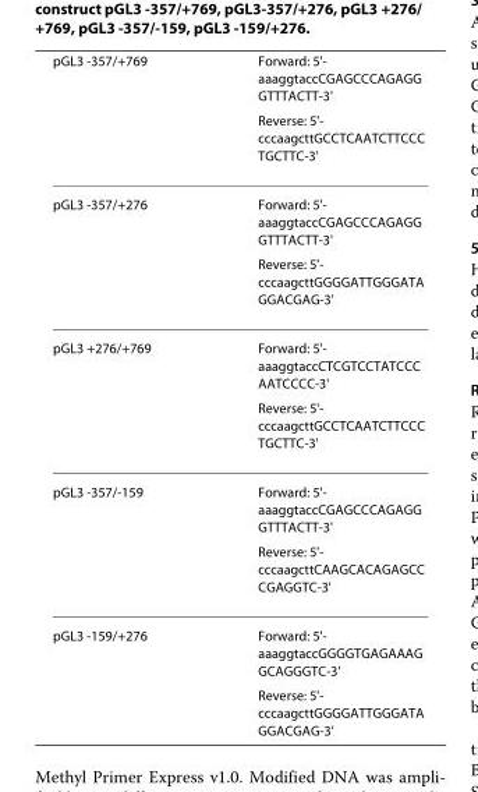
<table><thead><tr><td rowspan="2">pGL3 -357/+769</td><td rowspan="2">Forward: 5&#x27;- aaaggtaccCGAGCCCAGAGG GTTTACTT-3&#x27; Reverse: 5&#x27;- cccaagcttGCCTCAATCTTCCC TGCTTC-3&#x27;</td></tr><tr></tr></thead><tbody><tr><td rowspan="2">pGL3 -357/+276</td><td>Forward: 5&#x27;- aaaggtaccCGAGCCCAGAGG GTTTACTT-3&#x27;</td></tr><tr><td>Reverse: 5&#x27;- cccaagcttGGGGATTGGGATA GGACGAG-3&#x27;</td></tr><tr><td rowspan="2">pGL3 +276/+769</td><td>Forward: 5&#x27;- aaaggtaccCTCGTCCTATCCC AATCCCC-3&#x27;</td></tr><tr><td>Reverse: 5&#x27;- cccaagcttGCCTCAATCTTCCC TGCTTC-3&#x27;</td></tr><tr><td rowspan="2">pGL3 -357/-159</td><td>Forward: 5&#x27;- aaaggtaccCGAGCCCAGAGG GTTTACTT-3&#x27;</td></tr><tr><td>Reverse: 5&#x27;- cccaagcttCAAGCACAGAGCC CGAGGTC-3&#x27;</td></tr><tr><td rowspan="2">pGL3 -159/+276</td><td>Forward: 5&#x27;- aaaggtaccGGGGTGAGAAAG GCAGGGTC-3&#x27;</td></tr><tr><td>Reverse: 5&#x27;- cccaagcttGGGGATTGGGATA GGACGAG-3&#x27;</td></tr></tbody></table>